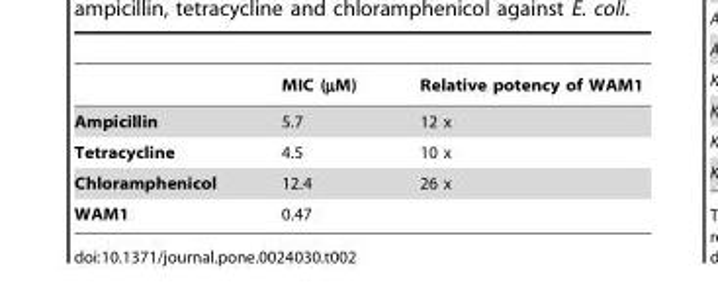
<table><thead><tr><td></td><td>MIC (µM)</td><td>Relative potency of WAM1</td></tr></thead><tbody><tr><td>Ampicillin</td><td>5.7</td><td>12 x</td></tr><tr><td>Tetracycline</td><td>4.5</td><td>10 x</td></tr><tr><td>Chloramphenicol</td><td>12.4</td><td>26 x</td></tr><tr><td>WAM1</td><td>0.47</td><td></td></tr></tbody></table>